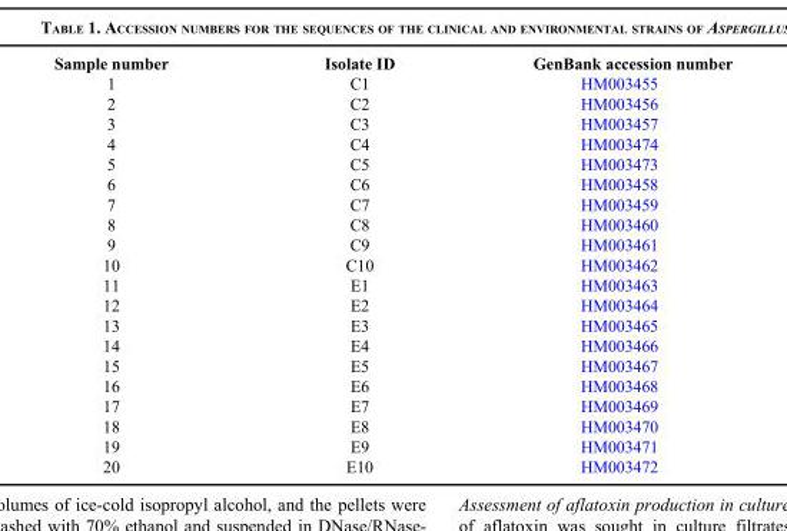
<table><thead><tr><td>Sample number</td><td>Isolate ID</td><td>GenBank accession number</td></tr></thead><tbody><tr><td>1</td><td>C1</td><td>HM003455</td></tr><tr><td>2</td><td>C2</td><td>HM003456</td></tr><tr><td>3</td><td>C3</td><td>HM003457</td></tr><tr><td>4</td><td>C4</td><td>HM003474</td></tr><tr><td>5</td><td>C5</td><td>HM003473</td></tr><tr><td>6</td><td>C6</td><td>HM003458</td></tr><tr><td>7</td><td>C7</td><td>HM003459</td></tr><tr><td>8</td><td>C8</td><td>HM003460</td></tr><tr><td>9</td><td>C9</td><td>HM003461</td></tr><tr><td>10</td><td>C10</td><td>HM003462</td></tr><tr><td>11</td><td>E1</td><td>HM003463</td></tr><tr><td>12</td><td>E2</td><td>HM003464</td></tr><tr><td>13</td><td>E3</td><td>HM003465</td></tr><tr><td>14</td><td>E4</td><td>HM003466</td></tr><tr><td>15</td><td>E5</td><td>HM003467</td></tr><tr><td>16</td><td>E6</td><td>HM003468</td></tr><tr><td>17</td><td>E7</td><td>HM003469</td></tr><tr><td>18</td><td>E8</td><td>HM003470</td></tr><tr><td>19</td><td>E9</td><td>HM003471</td></tr><tr><td>20</td><td>E10</td><td>HM003472</td></tr></tbody></table>